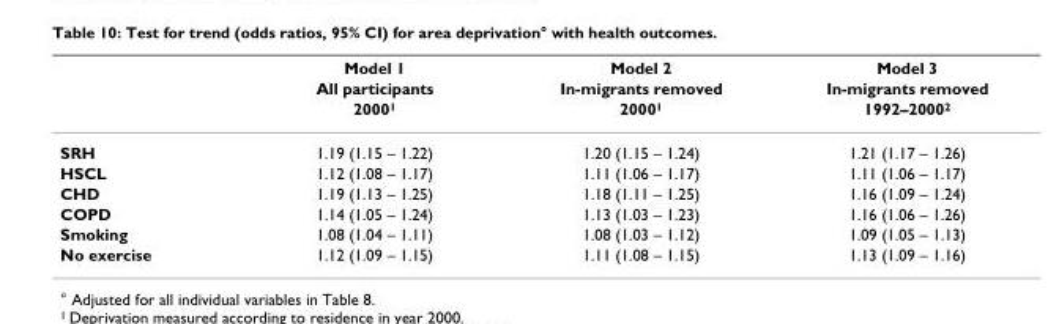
<table><thead><tr><td rowspan="3"></td><td rowspan="3">Model 1 All participants 2000<sup>1</sup></td><td rowspan="3">Model 2 In-migrants removed 2000<sup>1</sup></td><td rowspan="3">Model 3 In-migrants removed 1992–2000<sup>2</sup></td></tr><tr></tr><tr></tr></thead><tbody><tr><td>SRH</td><td>1.19 (1.15 – 1.22)</td><td>1.20 (1.15 – 1.24)</td><td>1.21 (1.17 – 1.26)</td></tr><tr><td>HSCL</td><td>1.12 (1.08 – 1.17)</td><td>1.11 (1.06 – 1.17)</td><td>1.11 (1.06 – 1.17)</td></tr><tr><td>CHD</td><td>1.19 (1.13 – 1.25)</td><td>1.18 (1.11 – 1.25)</td><td>1.16 (1.09 – 1.24)</td></tr><tr><td>COPD</td><td>1.14 (1.05 – 1.24)</td><td>1.13 (1.03 – 1.23)</td><td>1.16 (1.06 – 1.26)</td></tr><tr><td>Smoking</td><td>1.08 (1.04 – 1.11)</td><td>1.08 (1.03 – 1.12)</td><td>1.09 (1.05 – 1.13)</td></tr><tr><td>No exercise</td><td>1.12 (1.09 – 1.15)</td><td>1.11 (1.08 – 1.15)</td><td>1.13 (1.09 – 1.16)</td></tr></tbody></table>